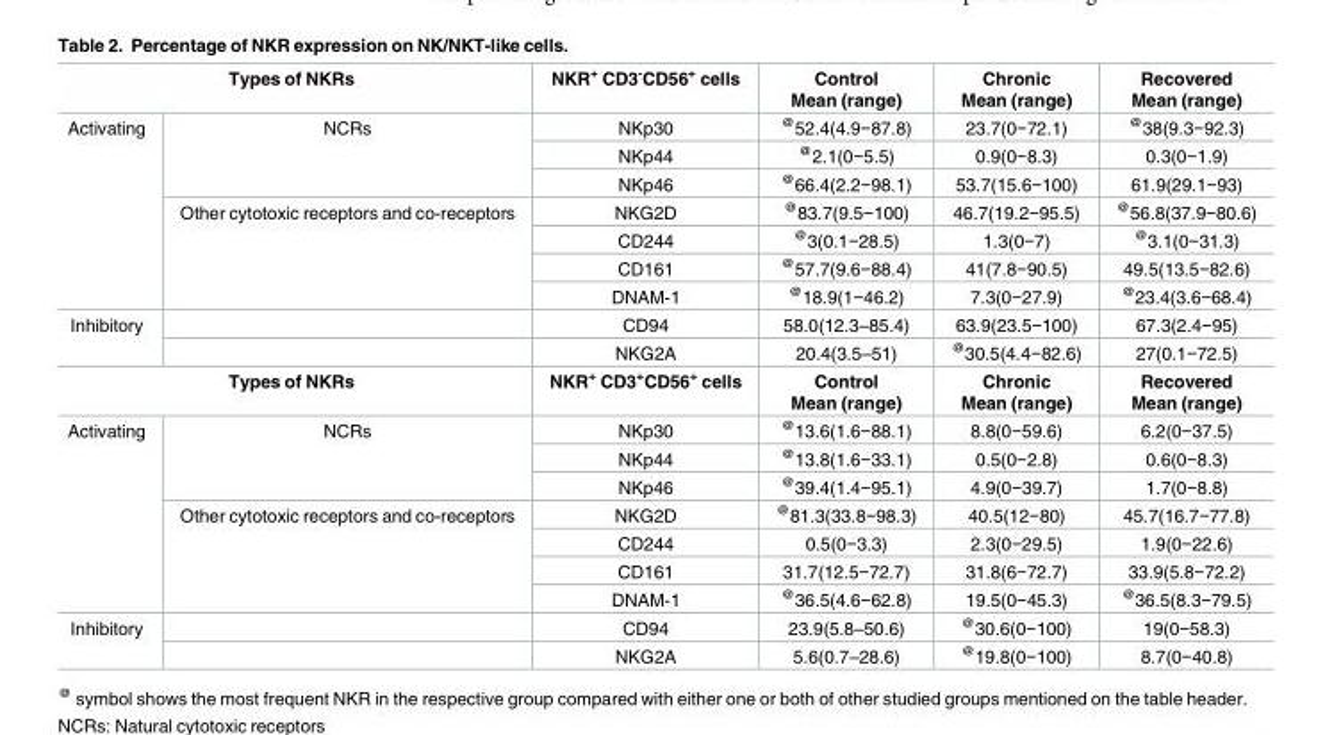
<table><tbody><tr><td colspan="2">Types of NKRs</td><td>NKR<sup>+</sup> CD3<sup>-</sup>CD56<sup>+</sup> cells</td><td>Control Mean (range)</td><td>Chronic Mean (range)</td><td>Recovered Mean (range)</td></tr><tr><td rowspan="7">Activating</td><td rowspan="3">NCRs</td><td>NKp30</td><td><sup>@</sup>52.4(4.9−87.8)</td><td>23.7(0−72.1)</td><td><sup>@</sup>38(9.3−92.3)</td></tr><tr><td>NKp44</td><td><sup>@</sup>2.1(0−5.5)</td><td>0.9(0−8.3)</td><td>0.3(0−1.9)</td></tr><tr><td>NKp46</td><td><sup>@</sup>66.4(2.2−98.1)</td><td>53.7(15.6−100)</td><td>61.9(29.1−93)</td></tr><tr><td rowspan="4">Other cytotoxic receptors and co-receptors</td><td>NKG2D</td><td><sup>@</sup>83.7(9.5−100)</td><td>46.7(19.2−95.5)</td><td><sup>@</sup>56.8(37.9−80.6)</td></tr><tr><td>CD244</td><td><sup>@</sup>3(0.1−28.5)</td><td>1.3(0−7)</td><td><sup>@</sup>3.1(0−31.3)</td></tr><tr><td>CD161</td><td><sup>@</sup>57.7(9.6−88.4)</td><td>41(7.8−90.5)</td><td>49.5(13.5−82.6)</td></tr><tr><td>DNAM-1</td><td><sup>@</sup>18.9(1−46.2)</td><td>7.3(0−27.9)</td><td><sup>@</sup>23.4(3.6−68.4)</td></tr><tr><td rowspan="2">Inhibitory</td><td></td><td>CD94</td><td>58.0(12.3–85.4)</td><td>63.9(23.5−100)</td><td>67.3(2.4−95)</td></tr><tr><td></td><td>NKG2A</td><td>20.4(3.5–51)</td><td><sup>@</sup>30.5(4.4−82.6)</td><td>27(0.1−72.5)</td></tr><tr><td colspan="2">Types of NKRs</td><td>NKR<sup>+</sup> CD3<sup>+</sup>CD56<sup>+</sup> cells</td><td>Control Mean (range)</td><td>Chronic Mean (range)</td><td>Recovered Mean (range)</td></tr><tr><td rowspan="7">Activating</td><td rowspan="3">NCRs</td><td>NKp30</td><td><sup>@</sup>13.6(1.6−88.1)</td><td>8.8(0−59.6)</td><td>6.2(0−37.5)</td></tr><tr><td>NKp44</td><td><sup>@</sup>13.8(1.6−33.1)</td><td>0.5(0−2.8)</td><td>0.6(0−8.3)</td></tr><tr><td>NKp46</td><td><sup>@</sup>39.4(1.4−95.1)</td><td>4.9(0−39.7)</td><td>1.7(0−8.8)</td></tr><tr><td rowspan="4">Other cytotoxic receptors and co-receptors</td><td>NKG2D</td><td><sup>@</sup>81.3(33.8−98.3)</td><td>40.5(12−80)</td><td>45.7(16.7−77.8)</td></tr><tr><td>CD244</td><td>0.5(0−3.3)</td><td>2.3(0−29.5)</td><td>1.9(0−22.6)</td></tr><tr><td>CD161</td><td>31.7(12.5−72.7)</td><td>31.8(6−72.7)</td><td>33.9(5.8−72.2)</td></tr><tr><td>DNAM-1</td><td><sup>@</sup>36.5(4.6−62.8)</td><td>19.5(0−45.3)</td><td><sup>@</sup>36.5(8.3−79.5)</td></tr><tr><td rowspan="2">Inhibitory</td><td></td><td>CD94</td><td>23.9(5.8–50.6)</td><td><sup>@</sup>30.6(0−100)</td><td>19(0−58.3)</td></tr><tr><td></td><td>NKG2A</td><td>5.6(0.7–28.6)</td><td><sup>@</sup>19.8(0−100)</td><td>8.7(0−40.8)</td></tr></tbody></table>